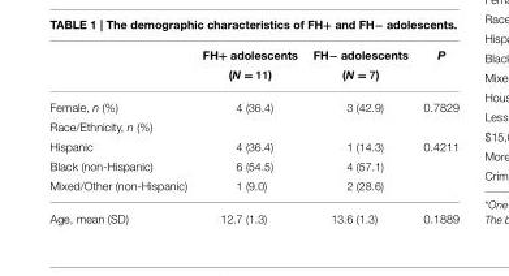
<table><thead><tr><td></td><td>FH+ adolescents (N = 11)</td><td>FH− adolescents (N = 7)</td><td>P</td></tr></thead><tbody><tr><td>Female, n (%)</td><td>4 (36.4)</td><td>3 (42.9)</td><td>0.7829</td></tr><tr><td colspan="4">Race/Ethnicity, n (%)</td></tr><tr><td>Hispanic</td><td>4 (36.4)</td><td>1 (14.3)</td><td>0.4211</td></tr><tr><td>Black (non-Hispanic)</td><td>6 (54.5)</td><td>4 (57.1)</td><td></td></tr><tr><td>Mixed/Other (non-Hispanic)</td><td>1 (9.0)</td><td>2 (28.6)</td><td></td></tr><tr><td>Age, mean (SD)</td><td>12.7 (1.3)</td><td>13.6 (1.3)</td><td>0.1889</td></tr></tbody></table>